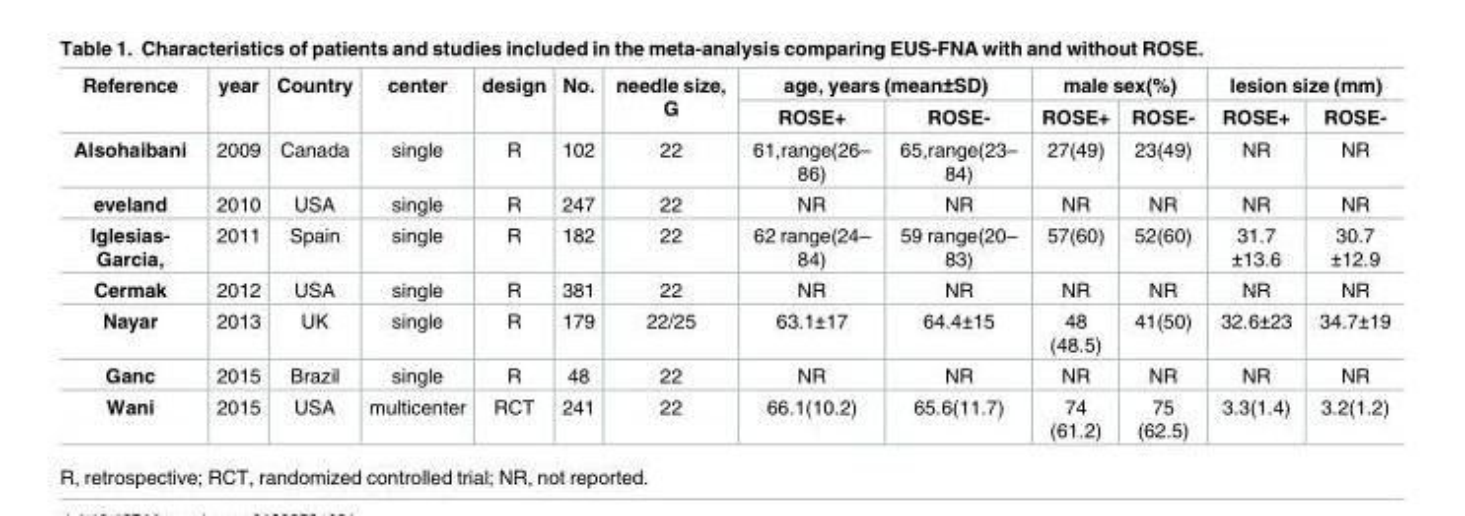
<table><thead><tr><td rowspan="2">Reference</td><td rowspan="2">year</td><td rowspan="2">Country</td><td rowspan="2">center</td><td rowspan="2">design</td><td rowspan="2">No.</td><td rowspan="2">needle size, G</td><td colspan="2">age, years (mean±SD)</td><td colspan="2">male sex(%)</td><td colspan="2">lesion size (mm)</td></tr><tr><td>ROSE+</td><td>ROSE-</td><td>ROSE+</td><td>ROSE-</td><td>ROSE+</td><td>ROSE-</td></tr></thead><tbody><tr><td>Alsohaibani</td><td>2009</td><td>Canada</td><td>single</td><td>R</td><td>102</td><td>22</td><td>61,range(26– 86)</td><td>65,range(23– 84)</td><td>27(49)</td><td>23(49)</td><td>NR</td><td>NR</td></tr><tr><td>eveland</td><td>2010</td><td>USA</td><td>single</td><td>R</td><td>247</td><td>22</td><td>NR</td><td>NR</td><td>NR</td><td>NR</td><td>NR</td><td>NR</td></tr><tr><td>Iglesias- Garcia,</td><td>2011</td><td>Spain</td><td>single</td><td>R</td><td>182</td><td>22</td><td>62 range(24– 84)</td><td>59 range(20– 83)</td><td>57(60)</td><td>52(60)</td><td>31.7 ±13.6</td><td>30.7 ±12.9</td></tr><tr><td>Cermak</td><td>2012</td><td>USA</td><td>single</td><td>R</td><td>381</td><td>22</td><td>NR</td><td>NR</td><td>NR</td><td>NR</td><td>NR</td><td>NR</td></tr><tr><td>Nayar</td><td>2013</td><td>UK</td><td>single</td><td>R</td><td>179</td><td>22/25</td><td>63.1±17</td><td>64.4±15</td><td>48 (48.5)</td><td>41(50)</td><td>32.6±23</td><td>34.7±19</td></tr><tr><td>Ganc</td><td>2015</td><td>Brazil</td><td>single</td><td>R</td><td>48</td><td>22</td><td>NR</td><td>NR</td><td>NR</td><td>NR</td><td>NR</td><td>NR</td></tr><tr><td>Wani</td><td>2015</td><td>USA</td><td>multicenter</td><td>RCT</td><td>241</td><td>22</td><td>66.1(10.2)</td><td>65.6(11.7)</td><td>74 (61.2)</td><td>75 (62.5)</td><td>3.3(1.4)</td><td>3.2(1.2)</td></tr></tbody></table>